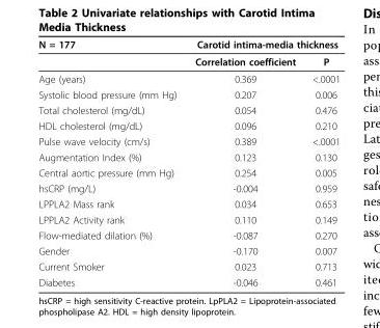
<table><thead><tr><td rowspan="2">N = 177</td><td colspan="2">Carotid intima-media thickness</td></tr><tr><td>Correlation coefficient</td><td>P</td></tr></thead><tbody><tr><td>Age (years)</td><td>0.369</td><td>&lt;.0001</td></tr><tr><td>Systolic blood pressure (mm Hg)</td><td>0.207</td><td>0.006</td></tr><tr><td>Total cholesterol (mg/dL)</td><td>0.054</td><td>0.476</td></tr><tr><td>HDL cholesterol (mg/dL)</td><td>0.096</td><td>0.210</td></tr><tr><td>Pulse wave velocity (cm/s)</td><td>0.389</td><td>&lt;.0001</td></tr><tr><td>Augmentation Index (%)</td><td>0.123</td><td>0.130</td></tr><tr><td>Central aortic pressure (mm Hg)</td><td>0.254</td><td>0.005</td></tr><tr><td>hsCRP (mg/L)</td><td>-0.004</td><td>0.959</td></tr><tr><td>LPPLA2 Mass rank</td><td>0.034</td><td>0.653</td></tr><tr><td>LPPLA2 Activity rank</td><td>0.110</td><td>0.149</td></tr><tr><td>Flow-mediated dilation (%)</td><td>-0.087</td><td>0.270</td></tr><tr><td>Gender</td><td>-0.170</td><td>0.007</td></tr><tr><td>Current Smoker</td><td>0.023</td><td>0.713</td></tr><tr><td>Diabetes</td><td>-0.046</td><td>0.461</td></tr></tbody></table>